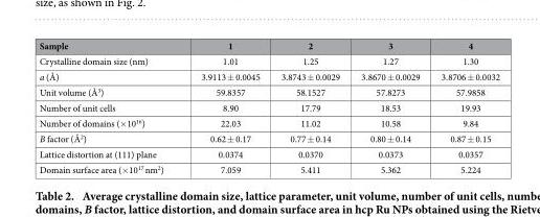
<table><thead><tr><td>Sample</td><td>1</td><td>2</td><td>3</td><td>4</td></tr></thead><tbody><tr><td>Crystalline domain size (nm)</td><td>1.01</td><td>1.25</td><td>1.27</td><td>1.30</td></tr><tr><td>a (Å)</td><td>3.9113 ± 0.0045</td><td>3.8743 ± 0.0029</td><td>3.8670 ± 0.0029</td><td>3.8706 ± 0.0032</td></tr><tr><td>Unit volume (Å<sup>3</sup>)</td><td>59.8357</td><td>58.1527</td><td>57.8273</td><td>57.9858</td></tr><tr><td>Number of unit cells</td><td>8.90</td><td>17.79</td><td>18.53</td><td>19.93</td></tr><tr><td>Number of domains (× 10<sup>16</sup>)</td><td>22.03</td><td>11.02</td><td>10.58</td><td>9.84</td></tr><tr><td>B factor (Å<sup>2</sup>)</td><td>0.62 ± 0.17</td><td>0.77 ± 0.14</td><td>0.80 ± 0.14</td><td>0.87 ± 0.15</td></tr><tr><td>Lattice distortion at (111) plane</td><td>0.0374</td><td>0.0370</td><td>0.0373</td><td>0.0357</td></tr><tr><td>Domain surface area (× 10<sup>17</sup> nm<sup>2</sup>)</td><td>7.059</td><td>5.411</td><td>5.362</td><td>5.224</td></tr></tbody></table>